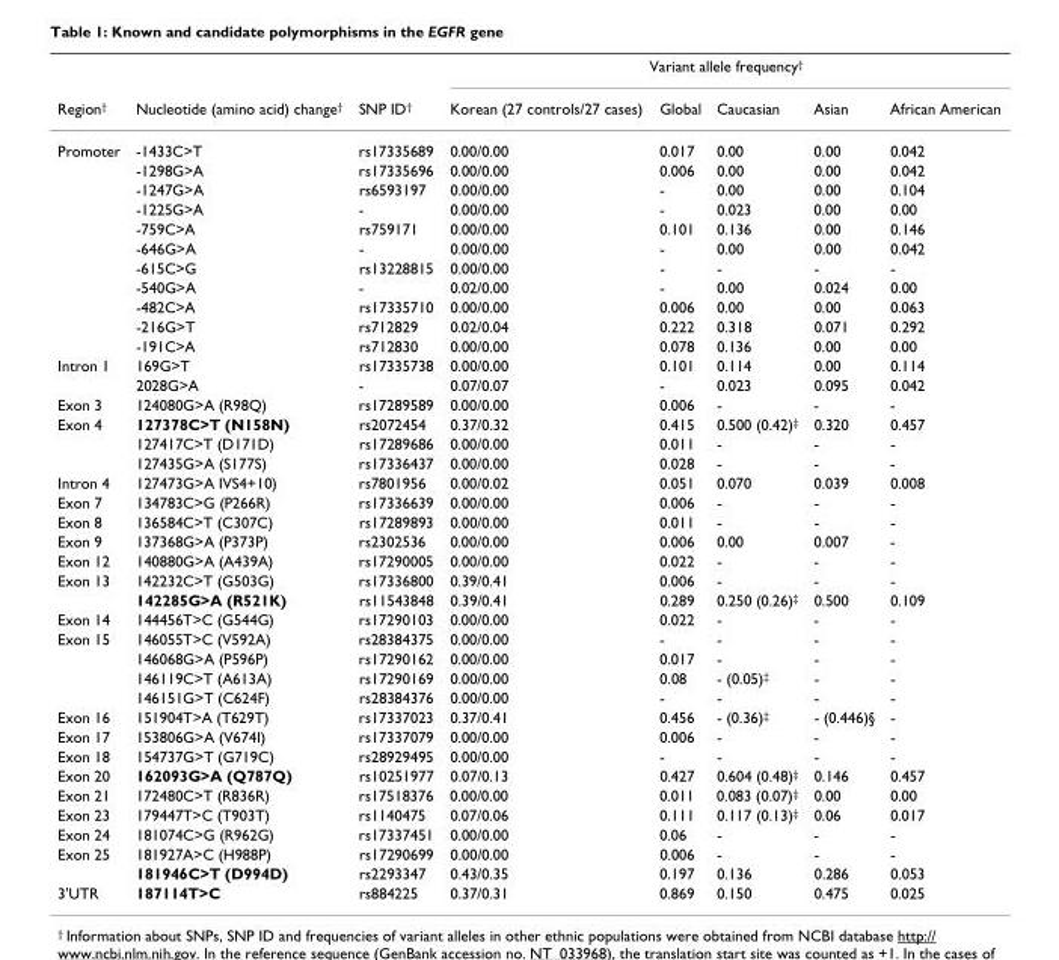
<table><thead><tr><td rowspan="2">Region<sup>†</sup></td><td rowspan="2">Nucleotide (amino acid) change<sup>†</sup></td><td rowspan="2">SNP ID<sup>†</sup></td><td colspan="5">Variant allele frequency<sup>†</sup></td></tr><tr><td>Korean (27 controls/27 cases)</td><td>Global</td><td>Caucasian</td><td>Asian</td><td>African American</td></tr></thead><tbody><tr><td rowspan="11">Promoter</td><td>-1433C&gt;T</td><td>rs17335689</td><td>0.00/0.00</td><td>0.017</td><td>0.00</td><td>0.00</td><td>0.042</td></tr><tr><td>-1298G&gt;A</td><td>rs17335696</td><td>0.00/0.00</td><td>0.006</td><td>0.00</td><td>0.00</td><td>0.042</td></tr><tr><td>-1247G&gt;A</td><td>rs6593197</td><td>0.00/0.00</td><td>-</td><td>0.00</td><td>0.00</td><td>0.104</td></tr><tr><td>-1225G&gt;A</td><td>-</td><td>0.00/0.00</td><td>-</td><td>0.023</td><td>0.00</td><td>0.00</td></tr><tr><td>-759C&gt;A</td><td>rs759171</td><td>0.00/0.00</td><td>0.101</td><td>0.136</td><td>0.00</td><td>0.146</td></tr><tr><td>-646G&gt;A</td><td>-</td><td>0.00/0.00</td><td>-</td><td>0.00</td><td>0.00</td><td>0.042</td></tr><tr><td>-615C&gt;G</td><td>rs13228815</td><td>0.00/0.00</td><td>-</td><td>-</td><td>-</td><td>-</td></tr><tr><td>-540G&gt;A</td><td>-</td><td>0.02/0.00</td><td>-</td><td>0.00</td><td>0.024</td><td>0.00</td></tr><tr><td>-482C&gt;A</td><td>rs17335710</td><td>0.00/0.00</td><td>0.006</td><td>0.00</td><td>0.00</td><td>0.063</td></tr><tr><td>-216G&gt;T</td><td>rs712829</td><td>0.02/0.04</td><td>0.222</td><td>0.318</td><td>0.071</td><td>0.292</td></tr><tr><td>-191C&gt;A</td><td>rs712830</td><td>0.00/0.00</td><td>0.078</td><td>0.136</td><td>0.00</td><td>0.00</td></tr><tr><td rowspan="2">Intron 1</td><td>169G&gt;T</td><td>rs17335738</td><td>0.00/0.00</td><td>0.101</td><td>0.114</td><td>0.00</td><td>0.114</td></tr><tr><td>2028G&gt;A</td><td>-</td><td>0.07/0.07</td><td>-</td><td>0.023</td><td>0.095</td><td>0.042</td></tr><tr><td>Exon 3</td><td>124080G&gt;A (R98Q)</td><td>rs17289589</td><td>0.00/0.00</td><td>0.006</td><td>-</td><td>-</td><td>-</td></tr><tr><td rowspan="3">Exon 4</td><td>127378C&gt;T (N158N)</td><td>rs2072454</td><td>0.37/0.32</td><td>0.415</td><td>0.500 (0.42)<sup>‡</sup></td><td>0.320</td><td>0.457</td></tr><tr><td>127417C&gt;T (D171D)</td><td>rs17289686</td><td>0.00/0.00</td><td>0.011</td><td>-</td><td>-</td><td>-</td></tr><tr><td>127435G&gt;A (S177S)</td><td>rs17336437</td><td>0.00/0.00</td><td>0.028</td><td>-</td><td>-</td><td>-</td></tr><tr><td>Intron 4</td><td>127473G&gt;A IVS4+10)</td><td>rs7801956</td><td>0.00/0.02</td><td>0.051</td><td>0.070</td><td>0.039</td><td>0.008</td></tr><tr><td>Exon 7</td><td>134783C&gt;G (P266R)</td><td>rs17336639</td><td>0.00/0.00</td><td>0.006</td><td>-</td><td>-</td><td>-</td></tr><tr><td>Exon 8</td><td>136584C&gt;T (C307C)</td><td>rs17289893</td><td>0.00/0.00</td><td>0.011</td><td>-</td><td>-</td><td>-</td></tr><tr><td>Exon 9</td><td>137368G&gt;A (P373P)</td><td>rs2302536</td><td>0.00/0.00</td><td>0.006</td><td>0.00</td><td>0.007</td><td>-</td></tr><tr><td>Exon 12</td><td>140880G&gt;A (A439A)</td><td>rs17290005</td><td>0.00/0.00</td><td>0.022</td><td>-</td><td>-</td><td>-</td></tr><tr><td rowspan="2">Exon 13</td><td>142232C&gt;T (G503G)</td><td>rs17336800</td><td>0.39/0.41</td><td>0.006</td><td>-</td><td>-</td><td>-</td></tr><tr><td>142285G&gt;A (R521K)</td><td>rs11543848</td><td>0.39/0.41</td><td>0.289</td><td>0.250 (0.26)<sup>‡</sup></td><td>0.500</td><td>0.109</td></tr><tr><td>Exon 14</td><td>144456T&gt;C (G544G)</td><td>rs17290103</td><td>0.00/0.00</td><td>0.022</td><td>-</td><td>-</td><td>-</td></tr><tr><td rowspan="4">Exon 15</td><td>146055T&gt;C (V592A)</td><td>rs28384375</td><td>0.00/0.00</td><td>-</td><td>-</td><td>-</td><td>-</td></tr><tr><td>146068G&gt;A (P596P)</td><td>rs17290162</td><td>0.00/0.00</td><td>0.017</td><td>-</td><td>-</td><td>-</td></tr><tr><td>146119C&gt;T (A613A)</td><td>rs17290169</td><td>0.00/0.00</td><td>0.08</td><td>- (0.05)<sup>‡</sup></td><td>-</td><td>-</td></tr><tr><td>146151G&gt;T (C624F)</td><td>rs28384376</td><td>0.00/0.00</td><td>-</td><td>-</td><td>-</td><td>-</td></tr><tr><td>Exon 16</td><td>151904T&gt;A (T629T)</td><td>rs17337023</td><td>0.37/0.41</td><td>0.456</td><td>- (0.36)<sup>‡</sup></td><td>- (0.446)§</td><td>-</td></tr><tr><td>Exon 17</td><td>153806G&gt;A (V674I)</td><td>rs17337079</td><td>0.00/0.00</td><td>0.006</td><td>-</td><td>-</td><td>-</td></tr><tr><td>Exon 18</td><td>154737G&gt;T (G719C)</td><td>rs28929495</td><td>0.00/0.00</td><td>-</td><td>-</td><td>-</td><td>-</td></tr><tr><td>Exon 20</td><td>162093G&gt;A (Q787Q)</td><td>rs10251977</td><td>0.07/0.13</td><td>0.427</td><td>0.604 (0.48)<sup>‡</sup></td><td>0.146</td><td>0.457</td></tr><tr><td>Exon 21</td><td>172480C&gt;T (R836R)</td><td>rs17518376</td><td>0.00/0.00</td><td>0.011</td><td>0.083 (0.07)<sup>‡</sup></td><td>0.00</td><td>0.00</td></tr><tr><td>Exon 23</td><td>179447T&gt;C (T903T)</td><td>rs1140475</td><td>0.07/0.06</td><td>0.111</td><td>0.117 (0.13)<sup>‡</sup></td><td>0.06</td><td>0.017</td></tr><tr><td>Exon 24</td><td>181074C&gt;G (R962G)</td><td>rs17337451</td><td>0.00/0.00</td><td>0.06</td><td>-</td><td>-</td><td>-</td></tr><tr><td rowspan="2">Exon 25</td><td>181927A&gt;C (H988P)</td><td>rs17290699</td><td>0.00/0.00</td><td>0.006</td><td>-</td><td>-</td><td>-</td></tr><tr><td>181946C&gt;T (D994D)</td><td>rs2293347</td><td>0.43/0.35</td><td>0.197</td><td>0.136</td><td>0.286</td><td>0.053</td></tr><tr><td>3&#x27;UTR</td><td>187114T&gt;C</td><td>rs884225</td><td>0.37/0.31</td><td>0.869</td><td>0.150</td><td>0.475</td><td>0.025</td></tr></tbody></table>